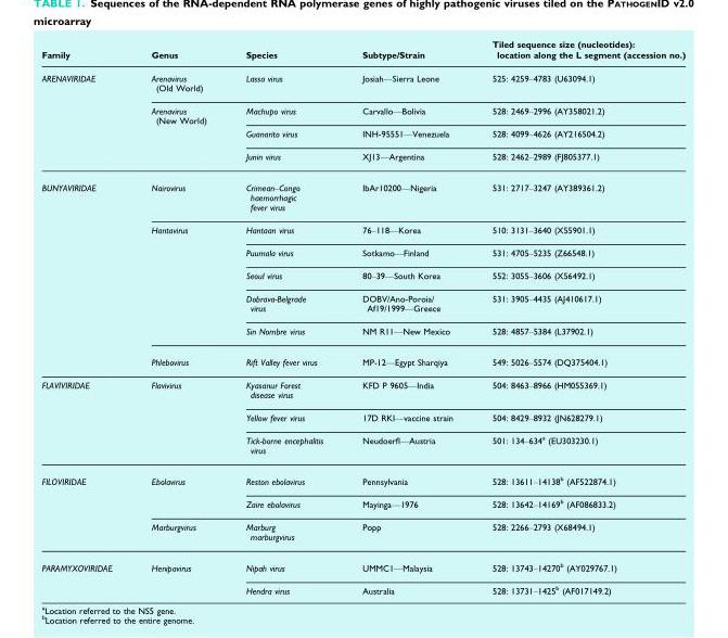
<table><thead><tr><td>Family</td><td>Genus</td><td>Species</td><td>Subtype/Strain</td><td>Tiled sequence size (nucleotides): location along the L segment (accession no.)</td></tr></thead><tbody><tr><td rowspan="4">ARENAVIRIDAE</td><td>Arenavirus (Old World)</td><td>Lassa virus</td><td>Josiah—Sierra Leone</td><td>525: 4259–4783 (U63094.1)</td></tr><tr><td>Arenavirus (New World)</td><td>Machupo virus</td><td>Carvallo—Bolivia</td><td>528: 2469–2996 (AY358021.2)</td></tr><tr><td></td><td>Guanarito virus</td><td>INH-95551—Venezuela</td><td>528: 4099–4626 (AY216504.2)</td></tr><tr><td></td><td>Junin virus</td><td>XJ13—Argentina</td><td>528: 2462–2989 (FJ805377.1)</td></tr><tr><td rowspan="7">BUNYAVIRIDAE</td><td>Nairovirus</td><td>Crimean–Congo haemorrhagic fever virus</td><td>IbAr10200—Nigeria</td><td>531: 2717–3247 (AY389361.2)</td></tr><tr><td>Hantavirus</td><td>Hantaan virus</td><td>76–118—Korea</td><td>510: 3131–3640 (X55901.1)</td></tr><tr><td></td><td>Puumala virus</td><td>Sotkamo—Finland</td><td>531: 4705–5235 (Z66548.1)</td></tr><tr><td></td><td>Seoul virus</td><td>80–39—South Korea</td><td>552: 3055–3606 (X56492.1)</td></tr><tr><td></td><td>Dobrava-Belgrade virus</td><td>DOBV/Ano-Poroia/ Af19/1999—Greece</td><td>531: 3905–4435 (AJ410617.1)</td></tr><tr><td></td><td>Sin Nombre virus</td><td>NM R11—New Mexico</td><td>528: 4857–5384 (L37902.1)</td></tr><tr><td>Phlebovirus</td><td>Rift Valley fever virus</td><td>MP-12—Egypt Sharqiya</td><td>549: 5026–5574 (DQ375404.1)</td></tr><tr><td rowspan="3">FLAVIVIRIDAE</td><td>Flavivirus</td><td>Kyasanur Forest disease virus</td><td>KFD P 9605—India</td><td>504: 8463–8966 (HM055369.1)</td></tr><tr><td></td><td>Yellow fever virus</td><td>17D RKI—vaccine strain</td><td>504: 8429–8932 (JN628279.1)</td></tr><tr><td></td><td>Tick-borne encephalitis virus</td><td>Neudoerfl—Austria</td><td>501: 134–634<sup>a</sup> (EU303230.1)</td></tr><tr><td rowspan="3">FILOVIRIDAE</td><td>Ebolavirus</td><td>Reston ebolavirus</td><td>Pennsylvania</td><td>528: 13611–14138<sup>b</sup> (AF522874.1)</td></tr><tr><td></td><td>Zaire ebolavirus</td><td>Mayinga—1976</td><td>528: 13642–14169<sup>b</sup> (AF086833.2)</td></tr><tr><td>Marburgvirus</td><td>Marburg marburgvirus</td><td>Popp</td><td>528: 2266–2793 (X68494.1)</td></tr><tr><td rowspan="2">PARAMYXOVIRIDAE</td><td>Henipavirus</td><td>Nipah virus</td><td>UMMC1—Malaysia</td><td>528: 13743–14270<sup>b</sup> (AY029767.1)</td></tr><tr><td></td><td>Hendra virus</td><td>Australia</td><td>528: 13731–1425<sup>b</sup> (AF017149.2)</td></tr></tbody></table>